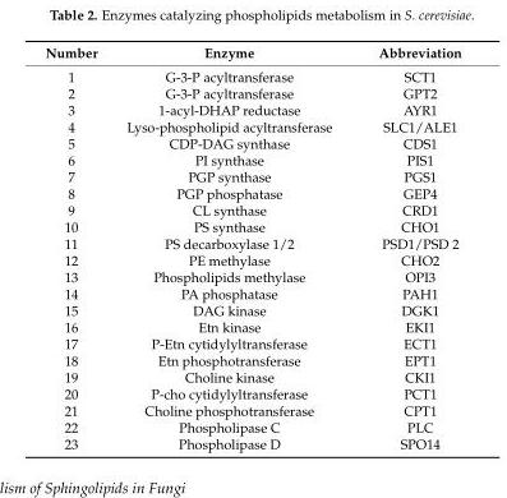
<table><thead><tr><td>Number</td><td>Enzyme</td><td>Abbreviation</td></tr></thead><tbody><tr><td>1</td><td>G-3-P acyltransferase</td><td>SCT1</td></tr><tr><td>2</td><td>G-3-P acyltransferase</td><td>GPT2</td></tr><tr><td>3</td><td>1-acyl-DHAP reductase</td><td>AYR1</td></tr><tr><td>4</td><td>Lyso-phospholipid acyltransferase</td><td>SLC1/ALE1</td></tr><tr><td>5</td><td>CDP-DAG synthase</td><td>CDS1</td></tr><tr><td>6</td><td>PI synthase</td><td>PIS1</td></tr><tr><td>7</td><td>PGP synthase</td><td>PGS1</td></tr><tr><td>8</td><td>PGP phosphatase</td><td>GEP4</td></tr><tr><td>9</td><td>CL synthase</td><td>CRD1</td></tr><tr><td>10</td><td>PS synthase</td><td>CHO1</td></tr><tr><td>11</td><td>PS decarboxylase 1/2</td><td>PSD1/PSD 2</td></tr><tr><td>12</td><td>PE methylase</td><td>CHO2</td></tr><tr><td>13</td><td>Phospholipids methylase</td><td>OPI3</td></tr><tr><td>14</td><td>PA phosphatase</td><td>PAH1</td></tr><tr><td>15</td><td>DAG kinase</td><td>DGK1</td></tr><tr><td>16</td><td>Etn kinase</td><td>EKI1</td></tr><tr><td>17</td><td>P-Etn cytidylyltransferase</td><td>ECT1</td></tr><tr><td>18</td><td>Etn phosphotransferase</td><td>EPT1</td></tr><tr><td>19</td><td>Choline kinase</td><td>CKI1</td></tr><tr><td>20</td><td>P-cho cytidylyltransferase</td><td>PCT1</td></tr><tr><td>21</td><td>Choline phosphotransferase</td><td>CPT1</td></tr><tr><td>22</td><td>Phospholipase C</td><td>PLC</td></tr><tr><td>23</td><td>Phospholipase D</td><td>SPO14</td></tr></tbody></table>